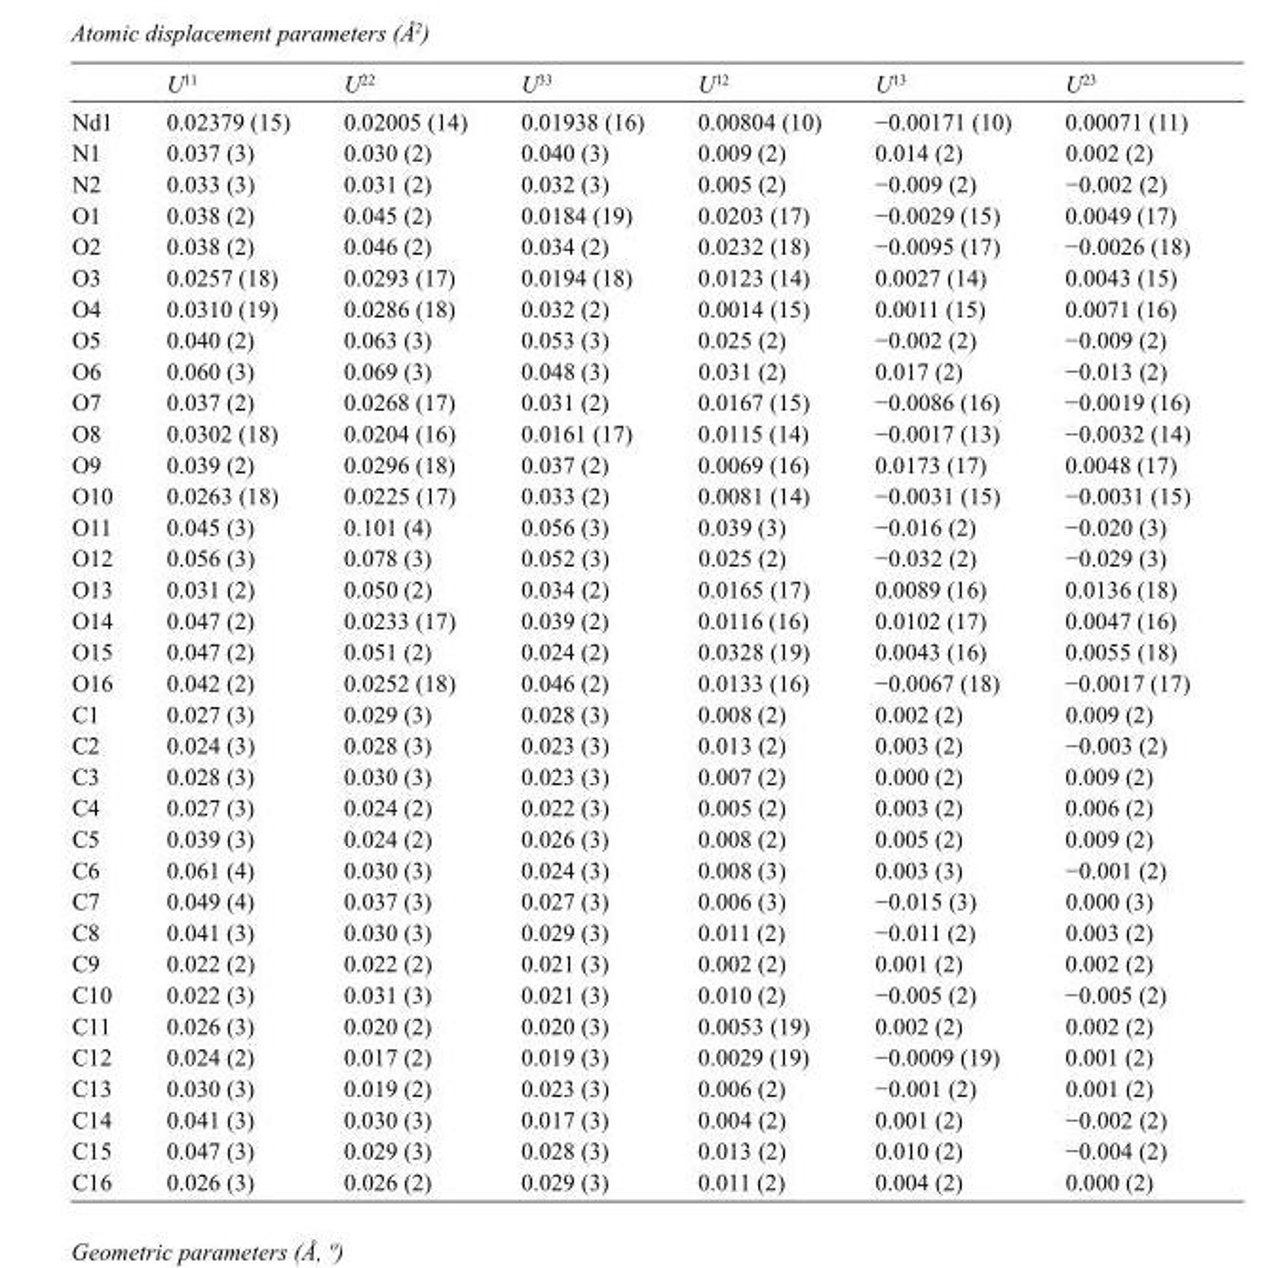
<table><thead><tr><td></td><td>U<sup>11</sup></td><td>U<sup>22</sup></td><td>U<sup>33</sup></td><td>U<sup>12</sup></td><td>U<sup>13</sup></td><td>U<sup>23</sup></td></tr></thead><tbody><tr><td>Nd1</td><td>0.02379 (15)</td><td>0.02005 (14)</td><td>0.01938 (16)</td><td>0.00804 (10)</td><td>−0.00171 (10)</td><td>0.00071 (11)</td></tr><tr><td>N1</td><td>0.037 (3)</td><td>0.030 (2)</td><td>0.040 (3)</td><td>0.009 (2)</td><td>0.014 (2)</td><td>0.002 (2)</td></tr><tr><td>N2</td><td>0.033 (3)</td><td>0.031 (2)</td><td>0.032 (3)</td><td>0.005 (2)</td><td>−0.009 (2)</td><td>−0.002 (2)</td></tr><tr><td>O1</td><td>0.038 (2)</td><td>0.045 (2)</td><td>0.0184 (19)</td><td>0.0203 (17)</td><td>−0.0029 (15)</td><td>0.0049 (17)</td></tr><tr><td>O2</td><td>0.038 (2)</td><td>0.046 (2)</td><td>0.034 (2)</td><td>0.0232 (18)</td><td>−0.0095 (17)</td><td>−0.0026 (18)</td></tr><tr><td>O3</td><td>0.0257 (18)</td><td>0.0293 (17)</td><td>0.0194 (18)</td><td>0.0123 (14)</td><td>0.0027 (14)</td><td>0.0043 (15)</td></tr><tr><td>O4</td><td>0.0310 (19)</td><td>0.0286 (18)</td><td>0.032 (2)</td><td>0.0014 (15)</td><td>0.0011 (15)</td><td>0.0071 (16)</td></tr><tr><td>O5</td><td>0.040 (2)</td><td>0.063 (3)</td><td>0.053 (3)</td><td>0.025 (2)</td><td>−0.002 (2)</td><td>−0.009 (2)</td></tr><tr><td>O6</td><td>0.060 (3)</td><td>0.069 (3)</td><td>0.048 (3)</td><td>0.031 (2)</td><td>0.017 (2)</td><td>−0.013 (2)</td></tr><tr><td>O7</td><td>0.037 (2)</td><td>0.0268 (17)</td><td>0.031 (2)</td><td>0.0167 (15)</td><td>−0.0086 (16)</td><td>−0.0019 (16)</td></tr><tr><td>O8</td><td>0.0302 (18)</td><td>0.0204 (16)</td><td>0.0161 (17)</td><td>0.0115 (14)</td><td>−0.0017 (13)</td><td>−0.0032 (14)</td></tr><tr><td>O9</td><td>0.039 (2)</td><td>0.0296 (18)</td><td>0.037 (2)</td><td>0.0069 (16)</td><td>0.0173 (17)</td><td>0.0048 (17)</td></tr><tr><td>O10</td><td>0.0263 (18)</td><td>0.0225 (17)</td><td>0.033 (2)</td><td>0.0081 (14)</td><td>−0.0031 (15)</td><td>−0.0031 (15)</td></tr><tr><td>O11</td><td>0.045 (3)</td><td>0.101 (4)</td><td>0.056 (3)</td><td>0.039 (3)</td><td>−0.016 (2)</td><td>−0.020 (3)</td></tr><tr><td>O12</td><td>0.056 (3)</td><td>0.078 (3)</td><td>0.052 (3)</td><td>0.025 (2)</td><td>−0.032 (2)</td><td>−0.029 (3)</td></tr><tr><td>O13</td><td>0.031 (2)</td><td>0.050 (2)</td><td>0.034 (2)</td><td>0.0165 (17)</td><td>0.0089 (16)</td><td>0.0136 (18)</td></tr><tr><td>O14</td><td>0.047 (2)</td><td>0.0233 (17)</td><td>0.039 (2)</td><td>0.0116 (16)</td><td>0.0102 (17)</td><td>0.0047 (16)</td></tr><tr><td>O15</td><td>0.047 (2)</td><td>0.051 (2)</td><td>0.024 (2)</td><td>0.0328 (19)</td><td>0.0043 (16)</td><td>0.0055 (18)</td></tr><tr><td>O16</td><td>0.042 (2)</td><td>0.0252 (18)</td><td>0.046 (2)</td><td>0.0133 (16)</td><td>−0.0067 (18)</td><td>−0.0017 (17)</td></tr><tr><td>C1</td><td>0.027 (3)</td><td>0.029 (3)</td><td>0.028 (3)</td><td>0.008 (2)</td><td>0.002 (2)</td><td>0.009 (2)</td></tr><tr><td>C2</td><td>0.024 (3)</td><td>0.028 (3)</td><td>0.023 (3)</td><td>0.013 (2)</td><td>0.003 (2)</td><td>−0.003 (2)</td></tr><tr><td>C3</td><td>0.028 (3)</td><td>0.030 (3)</td><td>0.023 (3)</td><td>0.007 (2)</td><td>0.000 (2)</td><td>0.009 (2)</td></tr><tr><td>C4</td><td>0.027 (3)</td><td>0.024 (2)</td><td>0.022 (3)</td><td>0.005 (2)</td><td>0.003 (2)</td><td>0.006 (2)</td></tr><tr><td>C5</td><td>0.039 (3)</td><td>0.024 (2)</td><td>0.026 (3)</td><td>0.008 (2)</td><td>0.005 (2)</td><td>0.009 (2)</td></tr><tr><td>C6</td><td>0.061 (4)</td><td>0.030 (3)</td><td>0.024 (3)</td><td>0.008 (3)</td><td>0.003 (3)</td><td>−0.001 (2)</td></tr><tr><td>C7</td><td>0.049 (4)</td><td>0.037 (3)</td><td>0.027 (3)</td><td>0.006 (3)</td><td>−0.015 (3)</td><td>0.000 (3)</td></tr><tr><td>C8</td><td>0.041 (3)</td><td>0.030 (3)</td><td>0.029 (3)</td><td>0.011 (2)</td><td>−0.011 (2)</td><td>0.003 (2)</td></tr><tr><td>C9</td><td>0.022 (2)</td><td>0.022 (2)</td><td>0.021 (3)</td><td>0.002 (2)</td><td>0.001 (2)</td><td>0.002 (2)</td></tr><tr><td>C10</td><td>0.022 (3)</td><td>0.031 (3)</td><td>0.021 (3)</td><td>0.010 (2)</td><td>−0.005 (2)</td><td>−0.005 (2)</td></tr><tr><td>C11</td><td>0.026 (3)</td><td>0.020 (2)</td><td>0.020 (3)</td><td>0.0053 (19)</td><td>0.002 (2)</td><td>0.002 (2)</td></tr><tr><td>C12</td><td>0.024 (2)</td><td>0.017 (2)</td><td>0.019 (3)</td><td>0.0029 (19)</td><td>−0.0009 (19)</td><td>0.001 (2)</td></tr><tr><td>C13</td><td>0.030 (3)</td><td>0.019 (2)</td><td>0.023 (3)</td><td>0.006 (2)</td><td>−0.001 (2)</td><td>0.001 (2)</td></tr><tr><td>C14</td><td>0.041 (3)</td><td>0.030 (3)</td><td>0.017 (3)</td><td>0.004 (2)</td><td>0.001 (2)</td><td>−0.002 (2)</td></tr><tr><td>C15</td><td>0.047 (3)</td><td>0.029 (3)</td><td>0.028 (3)</td><td>0.013 (2)</td><td>0.010 (2)</td><td>−0.004 (2)</td></tr><tr><td>C16</td><td>0.026 (3)</td><td>0.026 (2)</td><td>0.029 (3)</td><td>0.011 (2)</td><td>0.004 (2)</td><td>0.000 (2)</td></tr></tbody></table>